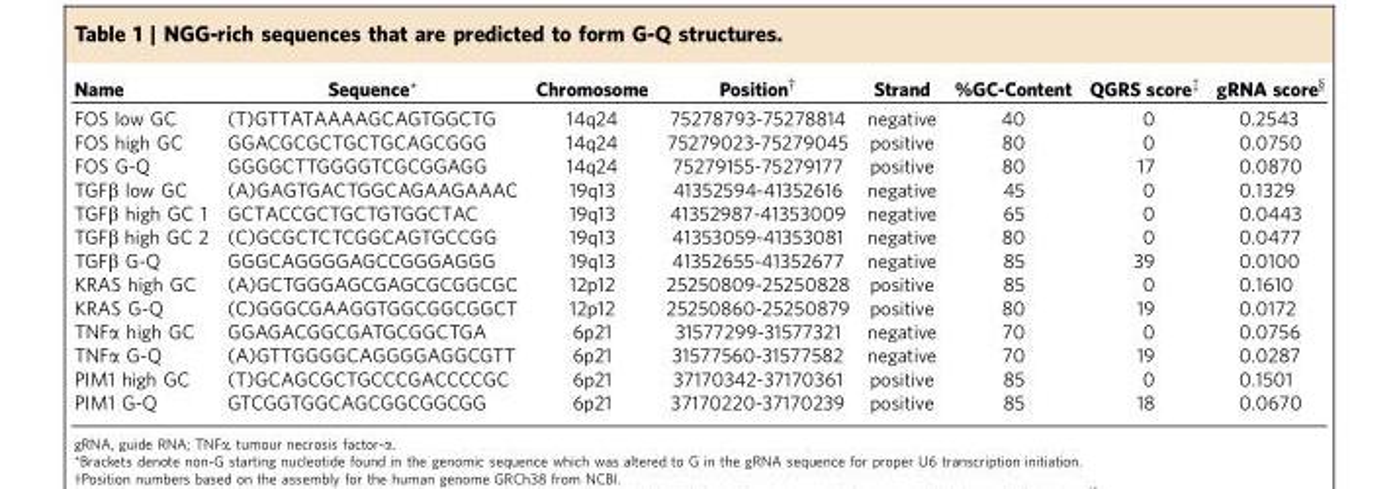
<table><thead><tr><td>Name</td><td>Sequence*</td><td>Chromosome</td><td>Position†</td><td>Strand</td><td>%GC-Content</td><td>QGRS score‡</td><td>gRNA score§</td></tr></thead><tbody><tr><td>FOS low GC</td><td>(T)GTTATAAAAGCAGTGGCTG</td><td>14q24</td><td>75278793-75278814</td><td>negative</td><td>40</td><td>0</td><td>0.2543</td></tr><tr><td>FOS high GC</td><td>GGACGCGCTGCTGCAGCGGG</td><td>14q24</td><td>75279023-75279045</td><td>positive</td><td>80</td><td>0</td><td>0.0750</td></tr><tr><td>FOS G-Q</td><td>GGGGCTTGGGGTCGCGGAGG</td><td>14q24</td><td>75279155-75279177</td><td>positive</td><td>80</td><td>17</td><td>0.0870</td></tr><tr><td>TGFβ low GC</td><td>(A)GAGTGACTGGCAGAAGAAAC</td><td>19q13</td><td>41352594-41352616</td><td>negative</td><td>45</td><td>0</td><td>0.1329</td></tr><tr><td>TGFβ high GC 1</td><td>GCTACCGCTGCTGTGGCTAC</td><td>19q13</td><td>41352987-41353009</td><td>negative</td><td>65</td><td>0</td><td>0.0443</td></tr><tr><td>TGFβ high GC 2</td><td>(C)GCGCTCTCGGCAGTGCCGG</td><td>19q13</td><td>41353059-41353081</td><td>negative</td><td>80</td><td>0</td><td>0.0477</td></tr><tr><td>TGFβ G-Q</td><td>GGGCAGGGGAGCCGGGAGGG</td><td>19q13</td><td>41352655-41352677</td><td>negative</td><td>85</td><td>39</td><td>0.0100</td></tr><tr><td>KRAS high GC</td><td>(A)GCTGGGAGCGAGCGCGGCGC</td><td>12p12</td><td>25250809-25250828</td><td>positive</td><td>85</td><td>0</td><td>0.1610</td></tr><tr><td>KRAS G-Q</td><td>(C)GGGCGAAGGTGGCGGCGGCT</td><td>12p12</td><td>25250860-25250879</td><td>positive</td><td>80</td><td>19</td><td>0.0172</td></tr><tr><td>TNFα high GC</td><td>GGAGACGGCGATGCGGCTGA</td><td>6p21</td><td>31577299-31577321</td><td>negative</td><td>70</td><td>0</td><td>0.0756</td></tr><tr><td>TNFα G-Q</td><td>(A)GTTGGGGCAGGGGAGGCGTT</td><td>6p21</td><td>31577560-31577582</td><td>negative</td><td>70</td><td>19</td><td>0.0287</td></tr><tr><td>PIM1 high GC</td><td>(T)GCAGCGCTGCCCGACCCCGC</td><td>6p21</td><td>37170342-37170361</td><td>positive</td><td>85</td><td>0</td><td>0.1501</td></tr><tr><td>PIM1 G-Q</td><td>GTCGGTGGCAGCGGCGGCGG</td><td>6p21</td><td>37170220-37170239</td><td>positive</td><td>85</td><td>18</td><td>0.0670</td></tr></tbody></table>